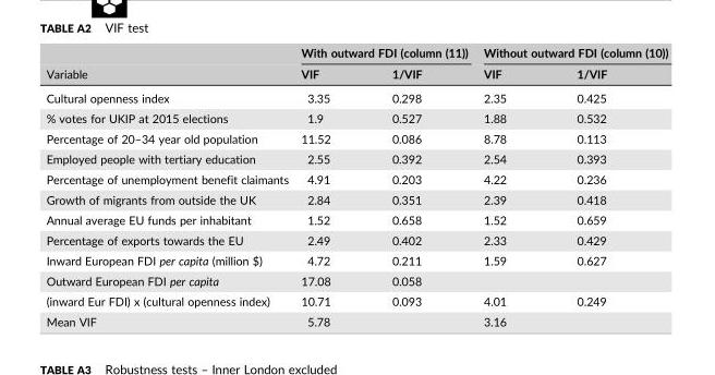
<table><thead><tr><td rowspan="2">Variable</td><td colspan="2">With outward FDI (column (11))</td><td colspan="2">Without outward FDI (column (10))</td></tr><tr><td>VIF</td><td>1/VIF</td><td>VIF</td><td>1/VIF</td></tr></thead><tbody><tr><td>Cultural openness index</td><td>3.35</td><td>0.298</td><td>2.35</td><td>0.425</td></tr><tr><td>% votes for UKIP at 2015 elections</td><td>1.9</td><td>0.527</td><td>1.88</td><td>0.532</td></tr><tr><td>Percentage of 20–34 year old population</td><td>11.52</td><td>0.086</td><td>8.78</td><td>0.113</td></tr><tr><td>Employed people with tertiary education</td><td>2.55</td><td>0.392</td><td>2.54</td><td>0.393</td></tr><tr><td>Percentage of unemployment benefit claimants</td><td>4.91</td><td>0.203</td><td>4.22</td><td>0.236</td></tr><tr><td>Growth of migrants from outside the UK</td><td>2.84</td><td>0.351</td><td>2.39</td><td>0.418</td></tr><tr><td>Annual average EU funds per inhabitant</td><td>1.52</td><td>0.658</td><td>1.52</td><td>0.659</td></tr><tr><td>Percentage of exports towards the EU</td><td>2.49</td><td>0.402</td><td>2.33</td><td>0.429</td></tr><tr><td>Inward European FDI per capita (million $)</td><td>4.72</td><td>0.211</td><td>1.59</td><td>0.627</td></tr><tr><td>Outward European FDI per capita</td><td>17.08</td><td>0.058</td><td></td><td></td></tr><tr><td>(inward Eur FDI) x (cultural openness index)</td><td>10.71</td><td>0.093</td><td>4.01</td><td>0.249</td></tr><tr><td>Mean VIF</td><td colspan="2">5.78</td><td colspan="2">3.16</td></tr></tbody></table>